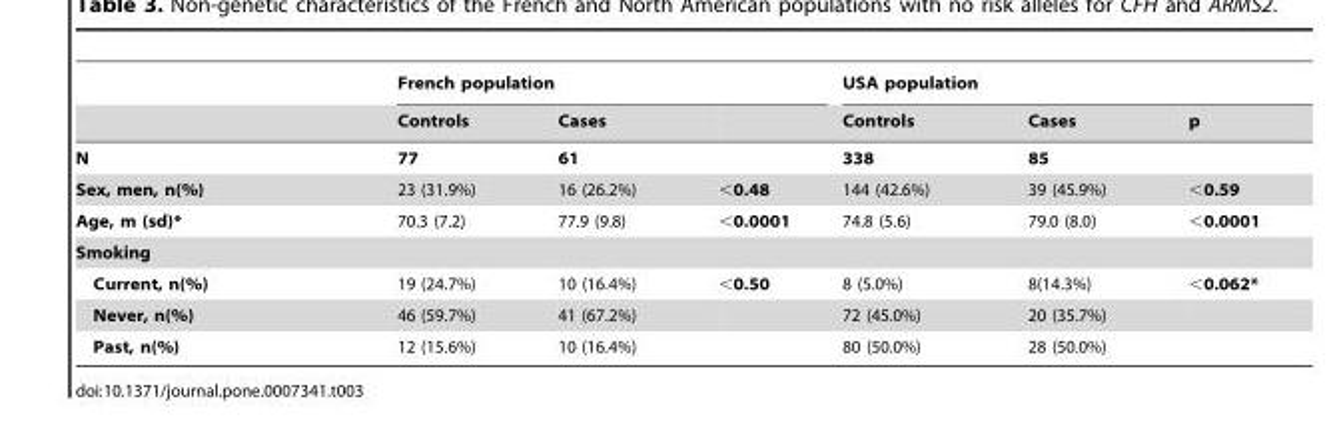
<table><thead><tr><td rowspan="2"></td><td colspan="3">French population</td><td colspan="3">USA population</td></tr><tr><td>Controls</td><td>Cases</td><td></td><td>Controls</td><td>Cases</td><td>p</td></tr></thead><tbody><tr><td>N</td><td>77</td><td>61</td><td></td><td>338</td><td>85</td><td></td></tr><tr><td>Sex, men, n(%)</td><td>23 (31.9%)</td><td>16 (26.2%)</td><td>&lt;0.48</td><td>144 (42.6%)</td><td>39 (45.9%)</td><td>&lt;0.59</td></tr><tr><td>Age, m (sd)*</td><td>70.3 (7.2)</td><td>77.9 (9.8)</td><td>&lt;0.0001</td><td>74.8 (5.6)</td><td>79.0 (8.0)</td><td>&lt;0.0001</td></tr><tr><td colspan="7">Smoking</td></tr><tr><td>Current, n(%)</td><td>19 (24.7%)</td><td>10 (16.4%)</td><td>&lt;0.50</td><td>8 (5.0%)</td><td>8(14.3%)</td><td>&lt;0.062*</td></tr><tr><td>Never, n(%)</td><td>46 (59.7%)</td><td>41 (67.2%)</td><td></td><td>72 (45.0%)</td><td>20 (35.7%)</td><td></td></tr><tr><td>Past, n(%)</td><td>12 (15.6%)</td><td>10 (16.4%)</td><td></td><td>80 (50.0%)</td><td>28 (50.0%)</td><td></td></tr></tbody></table>